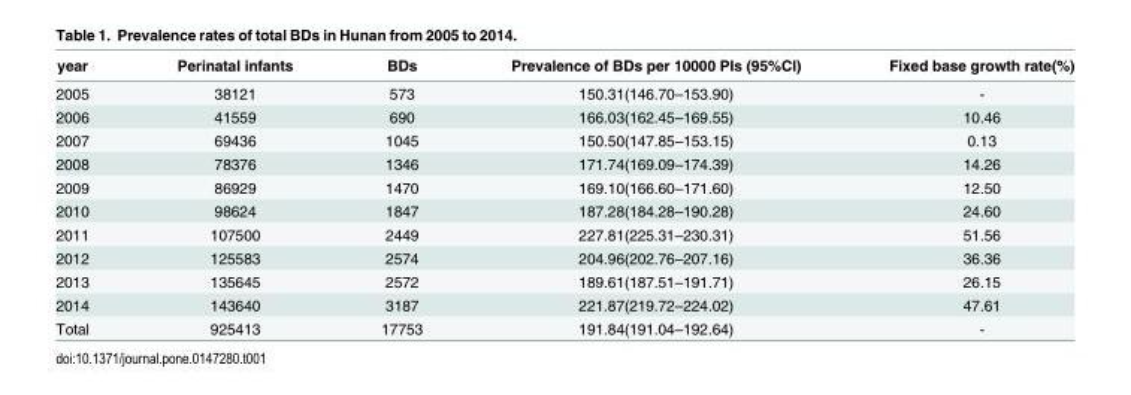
<table><thead><tr><td>year</td><td>Perinatal infants</td><td>BDs</td><td>Prevalence of BDs per 10000 PIs (95%CI)</td><td>Fixed base growth rate(%)</td></tr></thead><tbody><tr><td>2005</td><td>38121</td><td>573</td><td>150.31(146.70–153.90)</td><td>-</td></tr><tr><td>2006</td><td>41559</td><td>690</td><td>166.03(162.45–169.55)</td><td>10.46</td></tr><tr><td>2007</td><td>69436</td><td>1045</td><td>150.50(147.85–153.15)</td><td>0.13</td></tr><tr><td>2008</td><td>78376</td><td>1346</td><td>171.74(169.09–174.39)</td><td>14.26</td></tr><tr><td>2009</td><td>86929</td><td>1470</td><td>169.10(166.60–171.60)</td><td>12.50</td></tr><tr><td>2010</td><td>98624</td><td>1847</td><td>187.28(184.28–190.28)</td><td>24.60</td></tr><tr><td>2011</td><td>107500</td><td>2449</td><td>227.81(225.31–230.31)</td><td>51.56</td></tr><tr><td>2012</td><td>125583</td><td>2574</td><td>204.96(202.76–207.16)</td><td>36.36</td></tr><tr><td>2013</td><td>135645</td><td>2572</td><td>189.61(187.51–191.71)</td><td>26.15</td></tr><tr><td>2014</td><td>143640</td><td>3187</td><td>221.87(219.72–224.02)</td><td>47.61</td></tr><tr><td>Total</td><td>925413</td><td>17753</td><td>191.84(191.04–192.64)</td><td>-</td></tr></tbody></table>